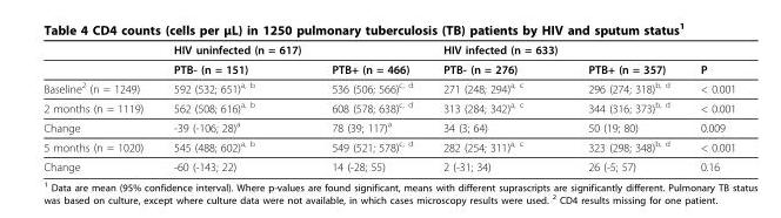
<table><thead><tr><td></td><td>HIV uninfected (n = 617)</td><td></td><td>HIV infected (n = 633)</td><td></td><td></td></tr></thead><tbody><tr><td></td><td>PTB- (n = 151)</td><td>PTB+ (n = 466)</td><td>PTB- (n = 276)</td><td>PTB+ (n = 357)</td><td>P</td></tr><tr><td>Baseline<sup>2</sup> (n = 1249)</td><td>592 (532; 651)<sup>a, b</sup></td><td>536 (506; 566)<sup>c, d</sup></td><td>271 (248; 294)<sup>a, c</sup></td><td>296 (274; 318)<sup>b, d</sup></td><td>&lt; 0.001</td></tr><tr><td>2 months (n = 1119)</td><td>562 (508; 616)<sup>a, b</sup></td><td>608 (578; 638)<sup>c, d</sup></td><td>313 (284; 342)<sup>a, c</sup></td><td>344 (316; 373)<sup>b, d</sup></td><td>&lt; 0.001</td></tr><tr><td>Change</td><td>-39 (-106; 28)<sup>a</sup></td><td>78 (39; 117)<sup>a</sup></td><td>34 (3; 64)</td><td>50 (19; 80)</td><td>0.009</td></tr><tr><td>5 months (n = 1020)</td><td>545 (488; 602)<sup>a, b</sup></td><td>549 (521; 578)<sup>c, d</sup></td><td>282 (254; 311)<sup>a, c</sup></td><td>323 (298; 348)<sup>b, d</sup></td><td>&lt; 0.001</td></tr><tr><td>Change</td><td>-60 (-143; 22)</td><td>14 (-28; 55)</td><td>2 (-31; 34)</td><td>26 (-5; 57)</td><td>0.16</td></tr></tbody></table>